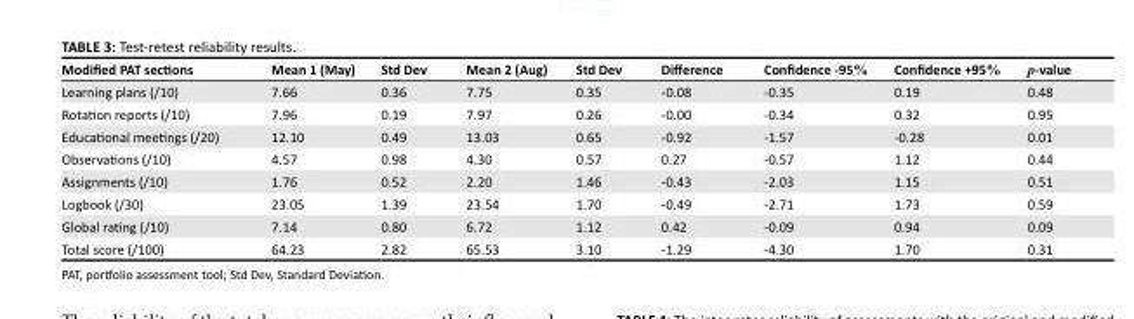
<table><thead><tr><td>Modified PAT sections</td><td>Mean 1 (May)</td><td>Std Dev</td><td>Mean 2 (Aug)</td><td>Std Dev</td><td>Difference</td><td>Confidence -95%</td><td>Confidence +95%</td><td>p-value</td></tr></thead><tbody><tr><td>Learning plans (/10)</td><td>7.66</td><td>0.36</td><td>7.75</td><td>0.35</td><td>-0.08</td><td>-0.35</td><td>0.19</td><td>0.48</td></tr><tr><td>Rotation reports (/10)</td><td>7.96</td><td>0.19</td><td>7.97</td><td>0.26</td><td>-0.00</td><td>-0.34</td><td>0.32</td><td>0.95</td></tr><tr><td>Educational meetings (/20)</td><td>12.10</td><td>0.49</td><td>13.03</td><td>0.65</td><td>-0.92</td><td>-1.57</td><td>-0.28</td><td>0.01</td></tr><tr><td>Observations (/10)</td><td>4.57</td><td>0.98</td><td>4.30</td><td>0.57</td><td>0.27</td><td>-0.57</td><td>1.12</td><td>0.44</td></tr><tr><td>Assignments (/10)</td><td>1.76</td><td>0.52</td><td>2.20</td><td>1.46</td><td>-0.43</td><td>-2.03</td><td>1.15</td><td>0.51</td></tr><tr><td>Logbook (/30)</td><td>23.05</td><td>1.39</td><td>23.54</td><td>1.70</td><td>-0.49</td><td>-2.71</td><td>1.73</td><td>0.59</td></tr><tr><td>Global rating (/10)</td><td>7.14</td><td>0.80</td><td>6.72</td><td>1.12</td><td>0.42</td><td>-0.09</td><td>0.94</td><td>0.09</td></tr><tr><td>Total score (/100)</td><td>64.23</td><td>2.82</td><td>65.53</td><td>3.10</td><td>-1.29</td><td>-4.30</td><td>1.70</td><td>0.31</td></tr></tbody></table>